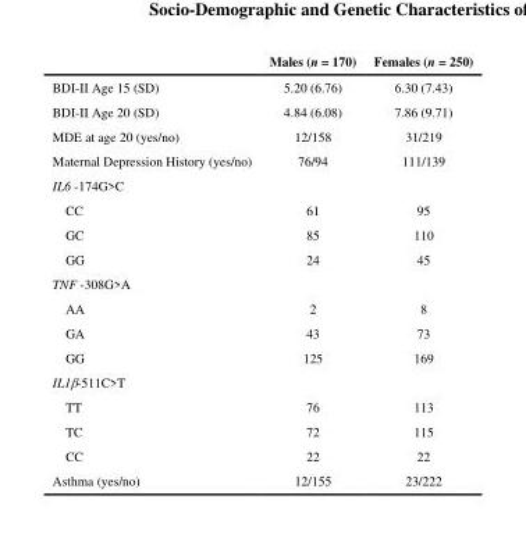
<table><thead><tr><td></td><td>Males (n = 170)</td><td>Females (n = 250)</td></tr></thead><tbody><tr><td>BDI-II Age 15 (SD)</td><td>5.20 (6.76)</td><td>6.30 (7.43)</td></tr><tr><td>BDI-II Age 20 (SD)</td><td>4.84 (6.08)</td><td>7.86 (9.71)</td></tr><tr><td>MDE at age 20 (yes/no)</td><td>12/158</td><td>31/219</td></tr><tr><td>Maternal Depression History (yes/no)</td><td>76/94</td><td>111/139</td></tr><tr><td colspan="3">IL6 -174G&gt;C</td></tr><tr><td>CC</td><td>61</td><td>95</td></tr><tr><td>GC</td><td>85</td><td>110</td></tr><tr><td>GG</td><td>24</td><td>45</td></tr><tr><td colspan="3">TNF -308G&gt;A</td></tr><tr><td>AA</td><td>2</td><td>8</td></tr><tr><td>GA</td><td>43</td><td>73</td></tr><tr><td>GG</td><td>125</td><td>169</td></tr><tr><td colspan="3">IL1β-511C&gt;T</td></tr><tr><td>TT</td><td>76</td><td>113</td></tr><tr><td>TC</td><td>72</td><td>115</td></tr><tr><td>CC</td><td>22</td><td>22</td></tr><tr><td>Asthma (yes/no)</td><td>12/155</td><td>23/222</td></tr></tbody></table>